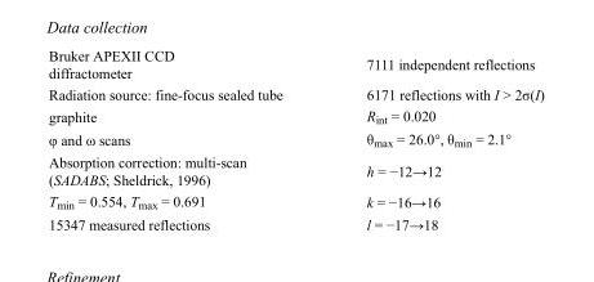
<table><tbody><tr><td>Bruker APEXII CCD diffractometer</td><td>7111 independent reflections</td></tr><tr><td>Radiation source: fine-focus sealed tube</td><td>6171 reflections with I &gt; 2σ(I)</td></tr><tr><td>graphite</td><td>R<sub>int</sub> = 0.020</td></tr><tr><td>φ and ω scans</td><td>θ<sub>max</sub> = 26.0°, θ<sub>min</sub> = 2.1°</td></tr><tr><td>Absorption correction: multi-scan (SADABS; Sheldrick, 1996)</td><td>h = −12→12</td></tr><tr><td>T<sub>min</sub> = 0.554, T<sub>max</sub> = 0.691</td><td>k = −16→16</td></tr><tr><td>15347 measured reflections</td><td>l = −17→18</td></tr></tbody></table>